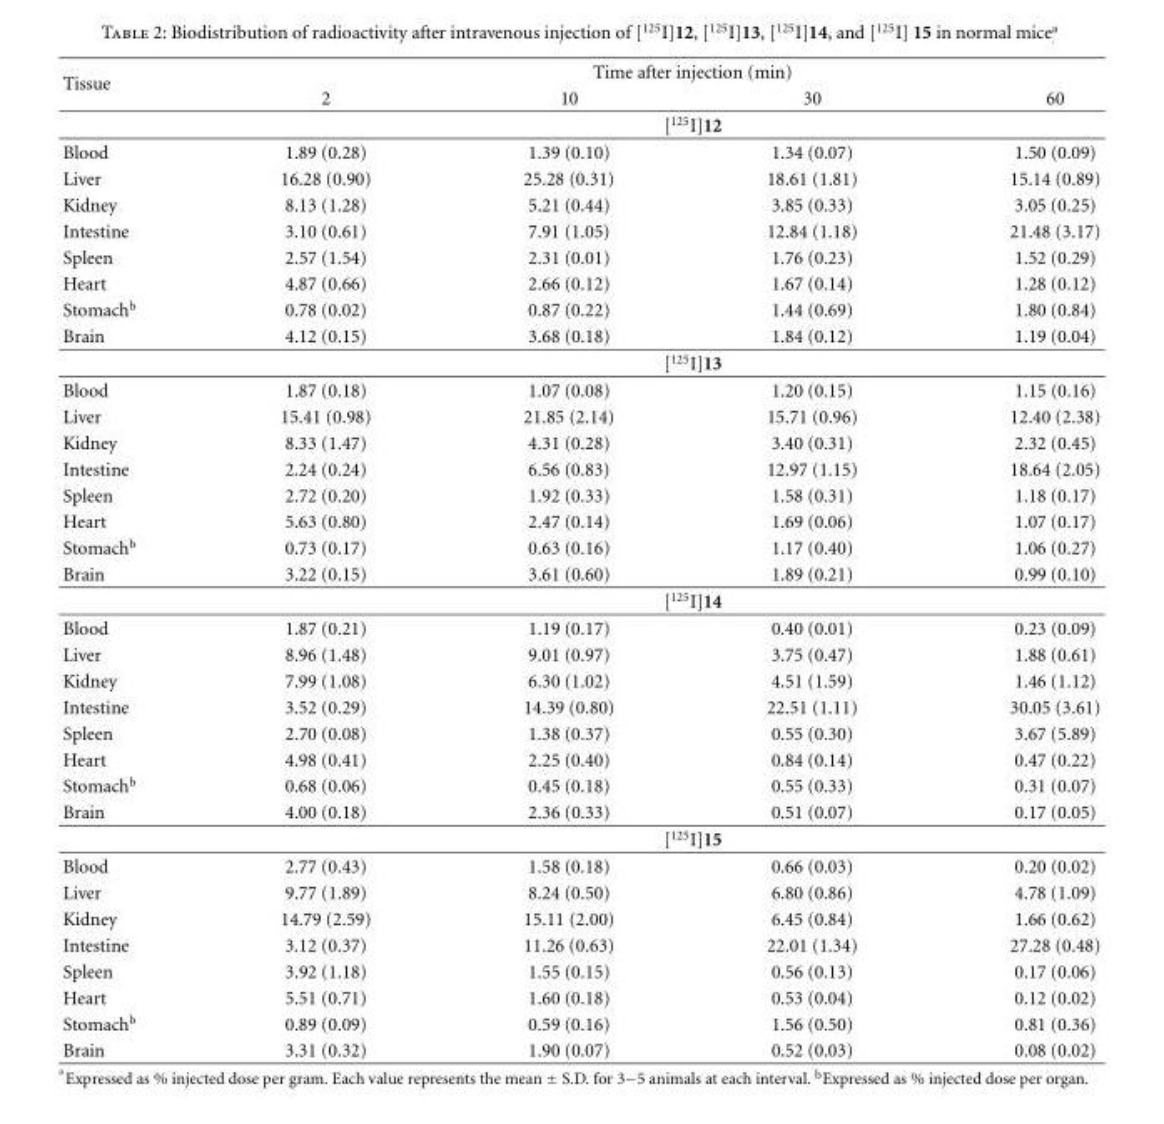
<table><thead><tr><td rowspan="2">Tissue</td><td colspan="4">Time after injection (min)</td></tr><tr><td>2</td><td>10</td><td>30</td><td>60</td></tr></thead><tbody><tr><td></td><td colspan="4">[<sup>125</sup>I]12</td></tr><tr><td>Blood</td><td>1.89 (0.28)</td><td>1.39 (0.10)</td><td>1.34 (0.07)</td><td>1.50 (0.09)</td></tr><tr><td>Liver</td><td>16.28 (0.90)</td><td>25.28 (0.31)</td><td>18.61 (1.81)</td><td>15.14 (0.89)</td></tr><tr><td>Kidney</td><td>8.13 (1.28)</td><td>5.21 (0.44)</td><td>3.85 (0.33)</td><td>3.05 (0.25)</td></tr><tr><td>Intestine</td><td>3.10 (0.61)</td><td>7.91 (1.05)</td><td>12.84 (1.18)</td><td>21.48 (3.17)</td></tr><tr><td>Spleen</td><td>2.57 (1.54)</td><td>2.31 (0.01)</td><td>1.76 (0.23)</td><td>1.52 (0.29)</td></tr><tr><td>Heart</td><td>4.87 (0.66)</td><td>2.66 (0.12)</td><td>1.67 (0.14)</td><td>1.28 (0.12)</td></tr><tr><td>Stomach<sup>b</sup></td><td>0.78 (0.02)</td><td>0.87 (0.22)</td><td>1.44 (0.69)</td><td>1.80 (0.84)</td></tr><tr><td rowspan="2">Brain</td><td>4.12 (0.15)</td><td>3.68 (0.18)</td><td>1.84 (0.12)</td><td>1.19 (0.04)</td></tr><tr><td colspan="4">[<sup>125</sup>I]13</td></tr><tr><td>Blood</td><td>1.87 (0.18)</td><td>1.07 (0.08)</td><td>1.20 (0.15)</td><td>1.15 (0.16)</td></tr><tr><td>Liver</td><td>15.41 (0.98)</td><td>21.85 (2.14)</td><td>15.71 (0.96)</td><td>12.40 (2.38)</td></tr><tr><td>Kidney</td><td>8.33 (1.47)</td><td>4.31 (0.28)</td><td>3.40 (0.31)</td><td>2.32 (0.45)</td></tr><tr><td>Intestine</td><td>2.24 (0.24)</td><td>6.56 (0.83)</td><td>12.97 (1.15)</td><td>18.64 (2.05)</td></tr><tr><td>Spleen</td><td>2.72 (0.20)</td><td>1.92 (0.33)</td><td>1.58 (0.31)</td><td>1.18 (0.17)</td></tr><tr><td>Heart</td><td>5.63 (0.80)</td><td>2.47 (0.14)</td><td>1.69 (0.06)</td><td>1.07 (0.17)</td></tr><tr><td>Stomach<sup>b</sup></td><td>0.73 (0.17)</td><td>0.63 (0.16)</td><td>1.17 (0.40)</td><td>1.06 (0.27)</td></tr><tr><td rowspan="2">Brain</td><td>3.22 (0.15)</td><td>3.61 (0.60)</td><td>1.89 (0.21)</td><td>0.99 (0.10)</td></tr><tr><td colspan="4">[<sup>125</sup>I]14</td></tr><tr><td>Blood</td><td>1.87 (0.21)</td><td>1.19 (0.17)</td><td>0.40 (0.01)</td><td>0.23 (0.09)</td></tr><tr><td>Liver</td><td>8.96 (1.48)</td><td>9.01 (0.97)</td><td>3.75 (0.47)</td><td>1.88 (0.61)</td></tr><tr><td>Kidney</td><td>7.99 (1.08)</td><td>6.30 (1.02)</td><td>4.51 (1.59)</td><td>1.46 (1.12)</td></tr><tr><td>Intestine</td><td>3.52 (0.29)</td><td>14.39 (0.80)</td><td>22.51 (1.11)</td><td>30.05 (3.61)</td></tr><tr><td>Spleen</td><td>2.70 (0.08)</td><td>1.38 (0.37)</td><td>0.55 (0.30)</td><td>3.67 (5.89)</td></tr><tr><td>Heart</td><td>4.98 (0.41)</td><td>2.25 (0.40)</td><td>0.84 (0.14)</td><td>0.47 (0.22)</td></tr><tr><td>Stomach<sup>b</sup></td><td>0.68 (0.06)</td><td>0.45 (0.18)</td><td>0.55 (0.33)</td><td>0.31 (0.07)</td></tr><tr><td rowspan="2">Brain</td><td>4.00 (0.18)</td><td>2.36 (0.33)</td><td>0.51 (0.07)</td><td>0.17 (0.05)</td></tr><tr><td colspan="4">[<sup>125</sup>I]15</td></tr><tr><td>Blood</td><td>2.77 (0.43)</td><td>1.58 (0.18)</td><td>0.66 (0.03)</td><td>0.20 (0.02)</td></tr><tr><td>Liver</td><td>9.77 (1.89)</td><td>8.24 (0.50)</td><td>6.80 (0.86)</td><td>4.78 (1.09)</td></tr><tr><td>Kidney</td><td>14.79 (2.59)</td><td>15.11 (2.00)</td><td>6.45 (0.84)</td><td>1.66 (0.62)</td></tr><tr><td>Intestine</td><td>3.12 (0.37)</td><td>11.26 (0.63)</td><td>22.01 (1.34)</td><td>27.28 (0.48)</td></tr><tr><td>Spleen</td><td>3.92 (1.18)</td><td>1.55 (0.15)</td><td>0.56 (0.13)</td><td>0.17 (0.06)</td></tr><tr><td>Heart</td><td>5.51 (0.71)</td><td>1.60 (0.18)</td><td>0.53 (0.04)</td><td>0.12 (0.02)</td></tr><tr><td>Stomach<sup>b</sup></td><td>0.89 (0.09)</td><td>0.59 (0.16)</td><td>1.56 (0.50)</td><td>0.81 (0.36)</td></tr><tr><td>Brain</td><td>3.31 (0.32)</td><td>1.90 (0.07)</td><td>0.52 (0.03)</td><td>0.08 (0.02)</td></tr></tbody></table>